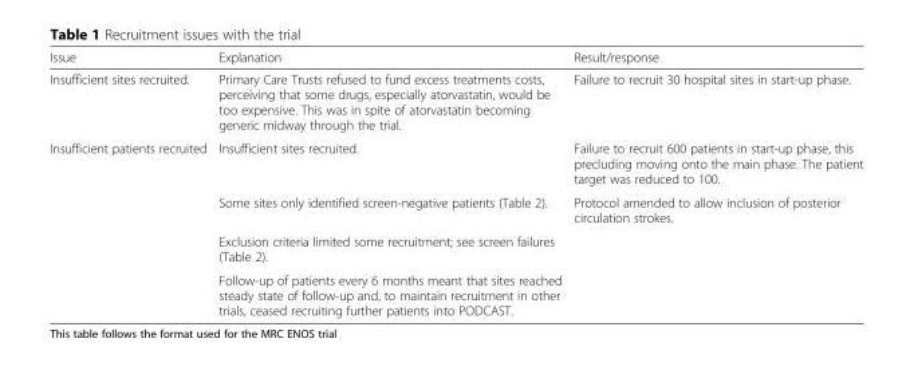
<table><thead><tr><td>Issue</td><td>Explanation</td><td>Result/response</td></tr></thead><tbody><tr><td>Insufficient sites recruited.</td><td>Primary Care Trusts refused to fund excess treatments costs, perceiving that some drugs, especially atorvastatin, would be too expensive. This was in spite of atorvastatin becoming generic midway through the trial.</td><td>Failure to recruit 30 hospital sites in start-up phase.</td></tr><tr><td rowspan="4">Insufficient patients recruited</td><td>Insufficient sites recruited.</td><td>Failure to recruit 600 patients in start-up phase, this precluding moving onto the main phase. The patient target was reduced to 100.</td></tr><tr><td>Some sites only identified screen-negative patients (Table 2).</td><td>Protocol amended to allow inclusion of posterior circulation strokes.</td></tr><tr><td>Exclusion criteria limited some recruitment; see screen failures (Table 2).</td><td></td></tr><tr><td>Follow-up of patients every 6 months meant that sites reached steady state of follow-up and, to maintain recruitment in other trials, ceased recruiting further patients into PODCAST.</td><td></td></tr></tbody></table>